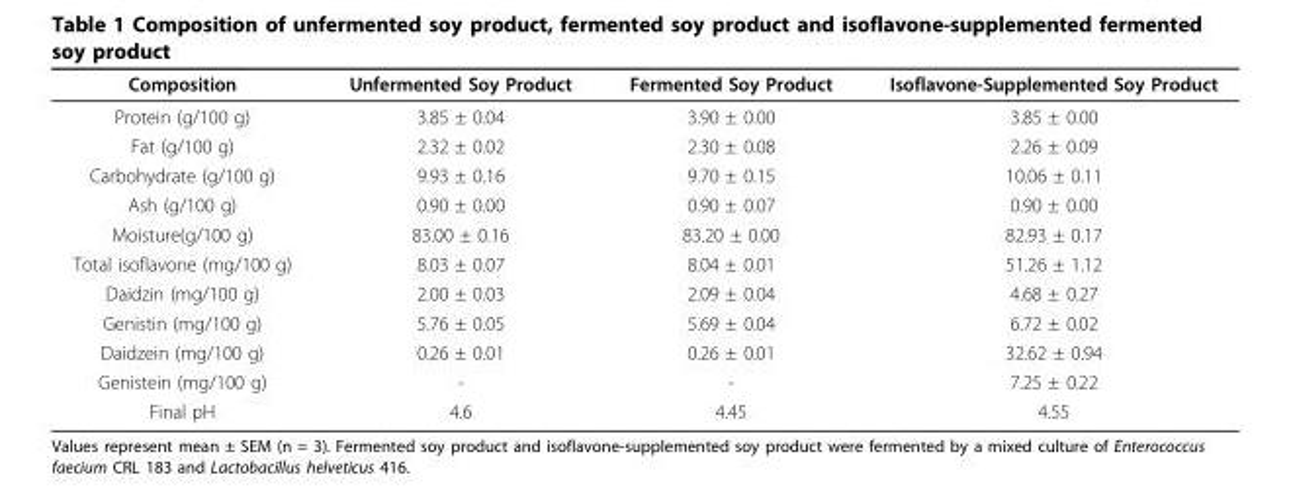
<table><thead><tr><td>Composition</td><td>Unfermented Soy Product</td><td>Fermented Soy Product</td><td>Isoflavone-Supplemented Soy Product</td></tr></thead><tbody><tr><td>Protein (g/100 g)</td><td>3.85 ± 0.04</td><td>3.90 ± 0.00</td><td>3.85 ± 0.00</td></tr><tr><td>Fat (g/100 g)</td><td>2.32 ± 0.02</td><td>2.30 ± 0.08</td><td>2.26 ± 0.09</td></tr><tr><td>Carbohydrate (g/100 g)</td><td>9.93 ± 0.16</td><td>9.70 ± 0.15</td><td>10.06 ± 0.11</td></tr><tr><td>Ash (g/100 g)</td><td>0.90 ± 0.00</td><td>0.90 ± 0.07</td><td>0.90 ± 0.00</td></tr><tr><td>Moisture(g/100 g)</td><td>83.00 ± 0.16</td><td>83.20 ± 0.00</td><td>82.93 ± 0.17</td></tr><tr><td>Total isoflavone (mg/100 g)</td><td>8.03 ± 0.07</td><td>8.04 ± 0.01</td><td>51.26 ± 1.12</td></tr><tr><td>Daidzin (mg/100 g)</td><td>2.00 ± 0.03</td><td>2.09 ± 0.04</td><td>4.68 ± 0.27</td></tr><tr><td>Genistin (mg/100 g)</td><td>5.76 ± 0.05</td><td>5.69 ± 0.04</td><td>6.72 ± 0.02</td></tr><tr><td>Daidzein (mg/100 g)</td><td>0.26 ± 0.01</td><td>0.26 ± 0.01</td><td>32.62 ± 0.94</td></tr><tr><td>Genistein (mg/100 g)</td><td>-</td><td>-</td><td>7.25 ± 0.22</td></tr><tr><td>Final pH</td><td>4.6</td><td>4.45</td><td>4.55</td></tr></tbody></table>